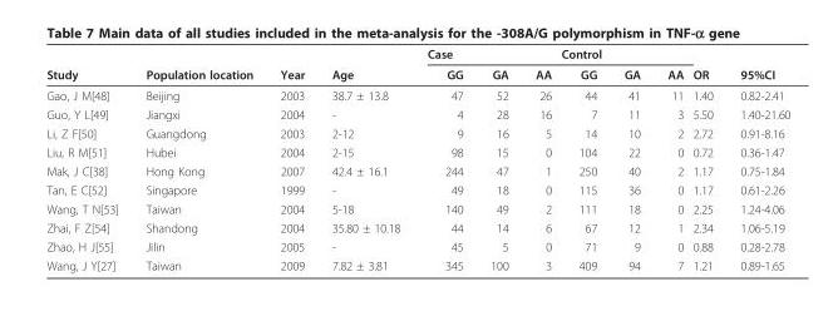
<table><thead><tr><td rowspan="2">Study</td><td rowspan="2">Population location</td><td rowspan="2">Year</td><td rowspan="2">Age</td><td colspan="3">Case</td><td colspan="3">Control</td><td rowspan="2">OR</td><td rowspan="2">95%CI</td></tr><tr><td>GG</td><td>GA</td><td>AA</td><td>GG</td><td>GA</td><td>AA</td></tr></thead><tbody><tr><td>Gao, J M[48]</td><td>Beijing</td><td>2003</td><td>38.7 ± 13.8</td><td>47</td><td>52</td><td>26</td><td>44</td><td>41</td><td>11</td><td>1.40</td><td>0.82-2.41</td></tr><tr><td>Guo, Y L[49]</td><td>Jiangxi</td><td>2004</td><td>-</td><td>4</td><td>28</td><td>16</td><td>7</td><td>11</td><td>3</td><td>5.50</td><td>1.40-21.60</td></tr><tr><td>Li, Z F[50]</td><td>Guangdong</td><td>2003</td><td>2-12</td><td>9</td><td>16</td><td>5</td><td>14</td><td>10</td><td>2</td><td>2.72</td><td>0.91-8.16</td></tr><tr><td>Liu, R M[51]</td><td>Hubei</td><td>2004</td><td>2-15</td><td>98</td><td>15</td><td>0</td><td>104</td><td>22</td><td>0</td><td>0.72</td><td>0.36-1.47</td></tr><tr><td>Mak, J C[38]</td><td>Hong Kong</td><td>2007</td><td>42.4 ± 16.1</td><td>244</td><td>47</td><td>1</td><td>250</td><td>40</td><td>2</td><td>1.17</td><td>0.75-1.84</td></tr><tr><td>Tan, E C[52]</td><td>Singapore</td><td>1999</td><td>-</td><td>49</td><td>18</td><td>0</td><td>115</td><td>36</td><td>0</td><td>1.17</td><td>0.61-2.26</td></tr><tr><td>Wang, T N[53]</td><td>Taiwan</td><td>2004</td><td>5-18</td><td>140</td><td>49</td><td>2</td><td>111</td><td>18</td><td>0</td><td>2.25</td><td>1.24-4.06</td></tr><tr><td>Zhai, F Z[54]</td><td>Shandong</td><td>2004</td><td>35.80 ± 10.18</td><td>44</td><td>14</td><td>6</td><td>67</td><td>12</td><td>1</td><td>2.34</td><td>1.06-5.19</td></tr><tr><td>Zhao, H J[55]</td><td>Jilin</td><td>2005</td><td>-</td><td>45</td><td>5</td><td>0</td><td>71</td><td>9</td><td>0</td><td>0.88</td><td>0.28-2.78</td></tr><tr><td>Wang, J Y[27]</td><td>Taiwan</td><td>2009</td><td>7.82 ± 3.81</td><td>345</td><td>100</td><td>3</td><td>409</td><td>94</td><td>7</td><td>1.21</td><td>0.89-1.65</td></tr></tbody></table>